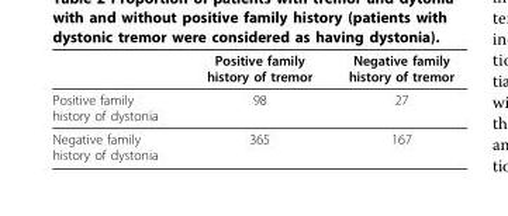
<table><thead><tr><td></td><td>Positive family history of tremor</td><td>Negative family history of tremor</td></tr></thead><tbody><tr><td>Positive family history of dystonia</td><td>98</td><td>27</td></tr><tr><td>Negative family history of dystonia</td><td>365</td><td>167</td></tr></tbody></table>